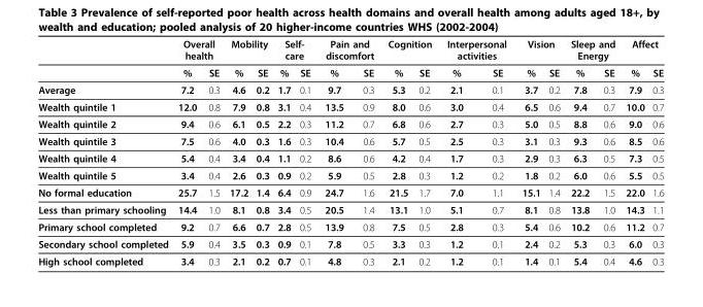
<table><thead><tr><td rowspan="2"></td><td colspan="2">Overall health</td><td colspan="2">Mobility</td><td colspan="2">Self- care</td><td colspan="2">Pain and discomfort</td><td colspan="2">Cognition</td><td colspan="2">Interpersonal activities</td><td colspan="2">Vision</td><td colspan="2">Sleep and Energy</td><td colspan="2">Affect</td></tr><tr><td>%</td><td>SE</td><td>%</td><td>SE</td><td>%</td><td>SE</td><td>%</td><td>SE</td><td>%</td><td>SE</td><td>%</td><td>SE</td><td>%</td><td>SE</td><td>%</td><td>SE</td><td>%</td><td>SE</td></tr></thead><tbody><tr><td>Average</td><td>7.2</td><td>0.3</td><td>4.6</td><td>0.2</td><td>1.7</td><td>0.1</td><td>9.7</td><td>0.3</td><td>5.3</td><td>0.2</td><td>2.1</td><td>0.1</td><td>3.7</td><td>0.2</td><td>7.8</td><td>0.3</td><td>7.9</td><td>0.3</td></tr><tr><td>Wealth quintile 1</td><td>12.0</td><td>0.8</td><td>7.9</td><td>0.8</td><td>3.1</td><td>0.4</td><td>13.5</td><td>0.9</td><td>8.0</td><td>0.6</td><td>3.0</td><td>0.4</td><td>6.5</td><td>0.6</td><td>9.4</td><td>0.7</td><td>10.0</td><td>0.7</td></tr><tr><td>Wealth quintile 2</td><td>9.4</td><td>0.6</td><td>6.1</td><td>0.5</td><td>2.2</td><td>0.3</td><td>11.2</td><td>0.7</td><td>6.8</td><td>0.6</td><td>2.7</td><td>0.3</td><td>5.0</td><td>0.5</td><td>8.8</td><td>0.6</td><td>9.0</td><td>0.6</td></tr><tr><td>Wealth quintile 3</td><td>7.5</td><td>0.6</td><td>4.0</td><td>0.3</td><td>1.6</td><td>0.3</td><td>10.4</td><td>0.6</td><td>5.7</td><td>0.5</td><td>2.5</td><td>0.3</td><td>3.1</td><td>0.3</td><td>9.3</td><td>0.6</td><td>8.5</td><td>0.6</td></tr><tr><td>Wealth quintile 4</td><td>5.4</td><td>0.4</td><td>3.4</td><td>0.4</td><td>1.1</td><td>0.2</td><td>8.6</td><td>0.6</td><td>4.2</td><td>0.4</td><td>1.7</td><td>0.3</td><td>2.9</td><td>0.3</td><td>6.3</td><td>0.5</td><td>7.3</td><td>0.5</td></tr><tr><td>Wealth quintile 5</td><td>3.4</td><td>0.4</td><td>2.6</td><td>0.3</td><td>0.9</td><td>0.2</td><td>5.9</td><td>0.5</td><td>2.8</td><td>0.3</td><td>1.2</td><td>0.2</td><td>1.8</td><td>0.2</td><td>6.0</td><td>0.6</td><td>5.5</td><td>0.5</td></tr><tr><td>No formal education</td><td>25.7</td><td>1.5</td><td>17.2</td><td>1.4</td><td>6.4</td><td>0.9</td><td>24.7</td><td>1.6</td><td>21.5</td><td>1.7</td><td>7.0</td><td>1.1</td><td>15.1</td><td>1.4</td><td>22.2</td><td>1.5</td><td>22.0</td><td>1.6</td></tr><tr><td>Less than primary schooling</td><td>14.4</td><td>1.0</td><td>8.1</td><td>0.8</td><td>3.4</td><td>0.5</td><td>20.5</td><td>1.4</td><td>13.1</td><td>1.0</td><td>5.1</td><td>0.7</td><td>8.1</td><td>0.8</td><td>13.8</td><td>1.0</td><td>14.3</td><td>1.1</td></tr><tr><td>Primary school completed</td><td>9.2</td><td>0.7</td><td>6.6</td><td>0.7</td><td>2.8</td><td>0.5</td><td>13.9</td><td>0.8</td><td>7.5</td><td>0.5</td><td>2.8</td><td>0.3</td><td>5.4</td><td>0.6</td><td>10.2</td><td>0.6</td><td>11.2</td><td>0.7</td></tr><tr><td>Secondary school completed</td><td>5.9</td><td>0.4</td><td>3.5</td><td>0.3</td><td>0.9</td><td>0.1</td><td>7.8</td><td>0.5</td><td>3.3</td><td>0.3</td><td>1.2</td><td>0.1</td><td>2.4</td><td>0.2</td><td>5.3</td><td>0.3</td><td>6.0</td><td>0.3</td></tr><tr><td>High school completed</td><td>3.4</td><td>0.3</td><td>2.1</td><td>0.2</td><td>0.7</td><td>0.1</td><td>4.8</td><td>0.3</td><td>2.1</td><td>0.2</td><td>1.2</td><td>0.1</td><td>1.4</td><td>0.1</td><td>5.4</td><td>0.4</td><td>4.6</td><td>0.3</td></tr></tbody></table>